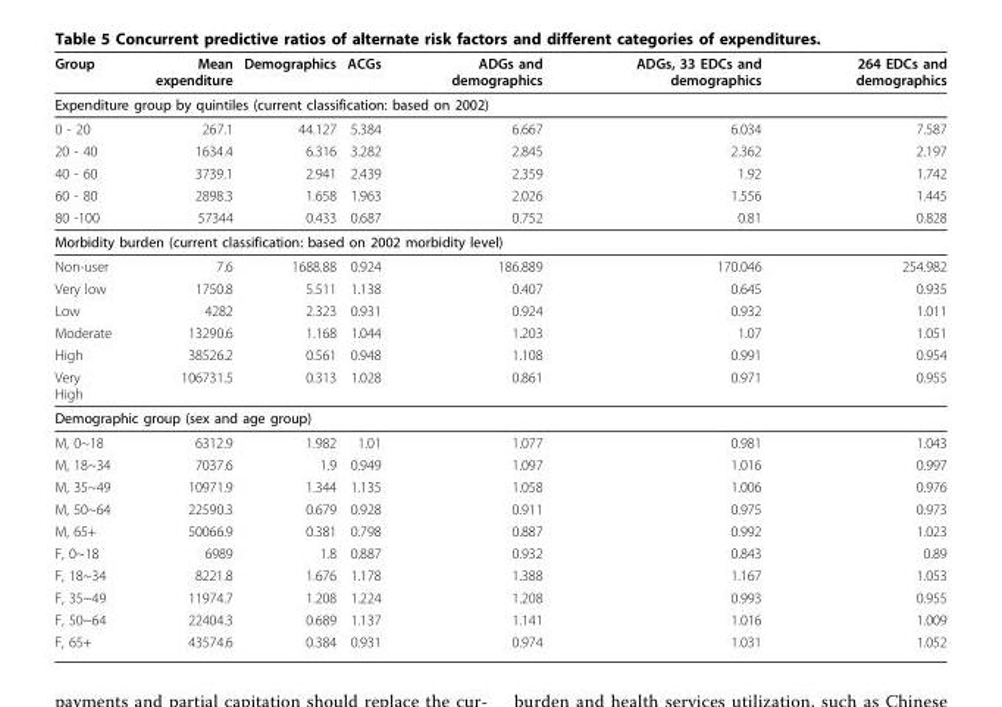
<table><thead><tr><td>Group</td><td>Mean expenditure</td><td>Demographics</td><td>ACGs</td><td>ADGs and demographics</td><td>ADGs, 33 EDCs and demographics</td><td>264 EDCs and demographics</td></tr></thead><tbody><tr><td colspan="7">Expenditure group by quintiles (current classification: based on 2002)</td></tr><tr><td>0 - 20</td><td>267.1</td><td>44.127</td><td>5.384</td><td>6.667</td><td>6.034</td><td>7.587</td></tr><tr><td>20 - 40</td><td>1634.4</td><td>6.316</td><td>3.282</td><td>2.845</td><td>2.362</td><td>2.197</td></tr><tr><td>40 - 60</td><td>3739.1</td><td>2.941</td><td>2.439</td><td>2.359</td><td>1.92</td><td>1.742</td></tr><tr><td>60 - 80</td><td>2898.3</td><td>1.658</td><td>1.963</td><td>2.026</td><td>1.556</td><td>1.445</td></tr><tr><td>80 -100</td><td>57344</td><td>0.433</td><td>0.687</td><td>0.752</td><td>0.81</td><td>0.828</td></tr><tr><td colspan="7">Morbidity burden (current classification: based on 2002 morbidity level)</td></tr><tr><td>Non-user</td><td>7.6</td><td>1688.88</td><td>0.924</td><td>186.889</td><td>170.046</td><td>254.982</td></tr><tr><td>Very low</td><td>1750.8</td><td>5.511</td><td>1.138</td><td>0.407</td><td>0.645</td><td>0.935</td></tr><tr><td>Low</td><td>4282</td><td>2.323</td><td>0.931</td><td>0.924</td><td>0.932</td><td>1.011</td></tr><tr><td>Moderate</td><td>13290.6</td><td>1.168</td><td>1.044</td><td>1.203</td><td>1.07</td><td>1.051</td></tr><tr><td>High</td><td>38526.2</td><td>0.561</td><td>0.948</td><td>1.108</td><td>0.991</td><td>0.954</td></tr><tr><td>Very High</td><td>106731.5</td><td>0.313</td><td>1.028</td><td>0.861</td><td>0.971</td><td>0.955</td></tr><tr><td colspan="7">Demographic group (sex and age group)</td></tr><tr><td>M, 0~18</td><td>6312.9</td><td>1.982</td><td>1.01</td><td>1.077</td><td>0.981</td><td>1.043</td></tr><tr><td>M, 18~34</td><td>7037.6</td><td>1.9</td><td>0.949</td><td>1.097</td><td>1.016</td><td>0.997</td></tr><tr><td>M, 35~49</td><td>10971.9</td><td>1.344</td><td>1.135</td><td>1.058</td><td>1.006</td><td>0.976</td></tr><tr><td>M, 50~64</td><td>22590.3</td><td>0.679</td><td>0.928</td><td>0.911</td><td>0.975</td><td>0.973</td></tr><tr><td>M, 65+</td><td>50066.9</td><td>0.381</td><td>0.798</td><td>0.887</td><td>0.992</td><td>1.023</td></tr><tr><td>F, 0~18</td><td>6989</td><td>1.8</td><td>0.887</td><td>0.932</td><td>0.843</td><td>0.89</td></tr><tr><td>F, 18~34</td><td>8221.8</td><td>1.676</td><td>1.178</td><td>1.388</td><td>1.167</td><td>1.053</td></tr><tr><td>F, 35~49</td><td>11974.7</td><td>1.208</td><td>1.224</td><td>1.208</td><td>0.993</td><td>0.955</td></tr><tr><td>F, 50~64</td><td>22404.3</td><td>0.689</td><td>1.137</td><td>1.141</td><td>1.016</td><td>1.009</td></tr><tr><td>F, 65+</td><td>43574.6</td><td>0.384</td><td>0.931</td><td>0.974</td><td>1.031</td><td>1.052</td></tr></tbody></table>